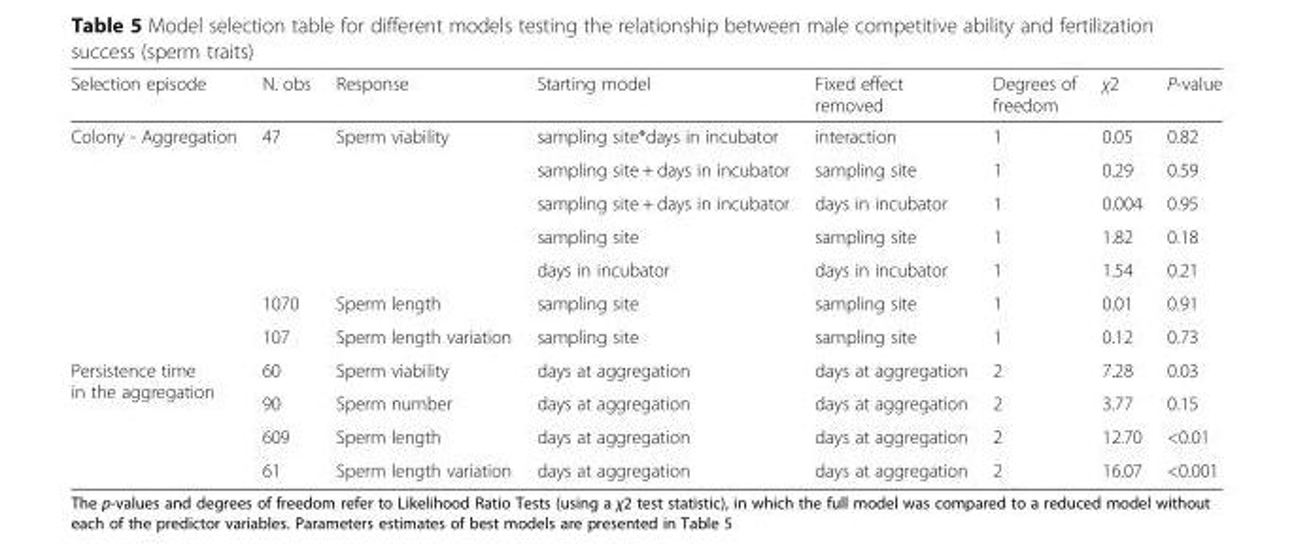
<table><thead><tr><td>Selection episode</td><td>N. obs</td><td>Response</td><td>Starting model</td><td>Fixed effect removed</td><td>Degrees of freedom</td><td>χ2</td><td>P-value</td></tr></thead><tbody><tr><td rowspan="7">Colony - Aggregation</td><td rowspan="5">47</td><td rowspan="5">Sperm viability</td><td>sampling site*days in incubator</td><td>interaction</td><td>1</td><td>0.05</td><td>0.82</td></tr><tr><td>sampling site + days in incubator</td><td>sampling site</td><td>1</td><td>0.29</td><td>0.59</td></tr><tr><td>sampling site + days in incubator</td><td>days in incubator</td><td>1</td><td>0.004</td><td>0.95</td></tr><tr><td>sampling site</td><td>sampling site</td><td>1</td><td>1.82</td><td>0.18</td></tr><tr><td>days in incubator</td><td>days in incubator</td><td>1</td><td>1.54</td><td>0.21</td></tr><tr><td>1070</td><td>Sperm length</td><td>sampling site</td><td>sampling site</td><td>1</td><td>0.01</td><td>0.91</td></tr><tr><td>107</td><td>Sperm length variation</td><td>sampling site</td><td>sampling site</td><td>1</td><td>0.12</td><td>0.73</td></tr><tr><td rowspan="4">Persistence time in the aggregation</td><td>60</td><td>Sperm viability</td><td>days at aggregation</td><td>days at aggregation</td><td>2</td><td>7.28</td><td>0.03</td></tr><tr><td>90</td><td>Sperm number</td><td>days at aggregation</td><td>days at aggregation</td><td>2</td><td>3.77</td><td>0.15</td></tr><tr><td>609</td><td>Sperm length</td><td>days at aggregation</td><td>days at aggregation</td><td>2</td><td>12.70</td><td>&lt;0.01</td></tr><tr><td>61</td><td>Sperm length variation</td><td>days at aggregation</td><td>days at aggregation</td><td>2</td><td>16.07</td><td>&lt;0.001</td></tr></tbody></table>